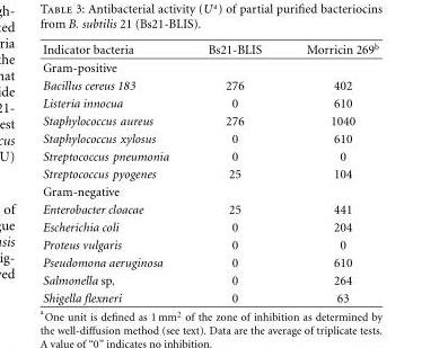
<table><thead><tr><td>Indicator bacteria</td><td>Bs21-BLIS</td><td>Morricin 269<sup>b</sup></td></tr></thead><tbody><tr><td colspan="3">Gram-positive</td></tr><tr><td>Bacillus cereus 183</td><td>276</td><td>402</td></tr><tr><td>Listeria innocua</td><td>0</td><td>610</td></tr><tr><td>Staphylococcus aureus</td><td>276</td><td>1040</td></tr><tr><td>Staphylococcus xylosus</td><td>0</td><td>610</td></tr><tr><td>Streptococcus pneumonia</td><td>0</td><td>0</td></tr><tr><td>Streptococcus pyogenes</td><td>25</td><td>104</td></tr><tr><td colspan="3">Gram-negative</td></tr><tr><td>Enterobacter cloacae</td><td>25</td><td>441</td></tr><tr><td>Escherichia coli</td><td>0</td><td>204</td></tr><tr><td>Proteus vulgaris</td><td>0</td><td>0</td></tr><tr><td>Pseudomona aeruginosa</td><td>0</td><td>610</td></tr><tr><td>Salmonella sp.</td><td>0</td><td>264</td></tr><tr><td>Shigella flexneri</td><td>0</td><td>63</td></tr></tbody></table>